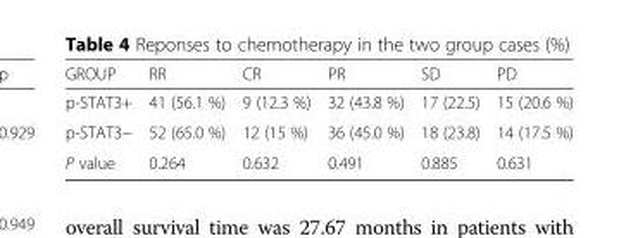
<table><thead><tr><td>GROUP</td><td>RR</td><td>CR</td><td>PR</td><td>SD</td><td>PD</td></tr></thead><tbody><tr><td>p-STAT3+</td><td>41 (56.1 %)</td><td>9 (12.3 %)</td><td>32 (43.8 %)</td><td>17 (22.5)</td><td>15 (20.6 %)</td></tr><tr><td>p-STAT3−</td><td>52 (65.0 %)</td><td>12 (15 %)</td><td>36 (45.0 %)</td><td>18 (23.8)</td><td>14 (17.5 %)</td></tr><tr><td>P value</td><td>0.264</td><td>0.632</td><td>0.491</td><td>0.885</td><td>0.631</td></tr></tbody></table>